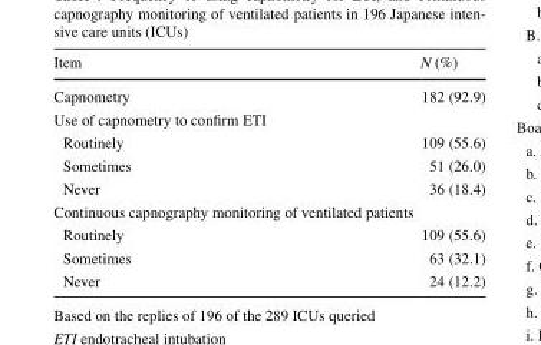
<table><thead><tr><td>Item</td><td>N (%)</td></tr></thead><tbody><tr><td>Capnometry</td><td>182 (92.9)</td></tr><tr><td colspan="2">Use of capnometry to confirm ETI</td></tr><tr><td>Routinely</td><td>109 (55.6)</td></tr><tr><td>Sometimes</td><td>51 (26.0)</td></tr><tr><td>Never</td><td>36 (18.4)</td></tr><tr><td colspan="2">Continuous capnography monitoring of ventilated patients</td></tr><tr><td>Routinely</td><td>109 (55.6)</td></tr><tr><td>Sometimes</td><td>63 (32.1)</td></tr><tr><td>Never</td><td>24 (12.2)</td></tr></tbody></table>